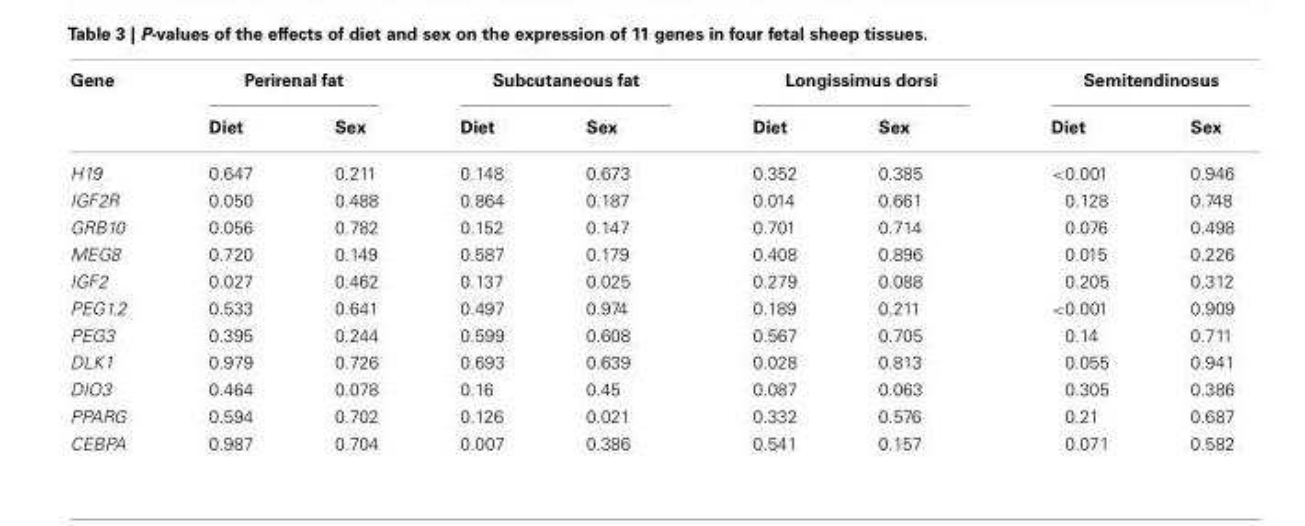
<table><thead><tr><td rowspan="2">Gene</td><td colspan="2">Perirenal fat</td><td colspan="2">Subcutaneous fat</td><td colspan="2">Longissimus dorsi</td><td colspan="2">Semitendinosus</td></tr><tr><td>Diet</td><td>Sex</td><td>Diet</td><td>Sex</td><td>Diet</td><td>Sex</td><td>Diet</td><td>Sex</td></tr></thead><tbody><tr><td>H19</td><td>0.647</td><td>0.211</td><td>0.148</td><td>0.673</td><td>0.352</td><td>0.385</td><td>&lt;0.001</td><td>0.946</td></tr><tr><td>IGF2R</td><td>0.050</td><td>0.488</td><td>0.864</td><td>0.187</td><td>0.014</td><td>0.661</td><td>0.128</td><td>0.748</td></tr><tr><td>GRB10</td><td>0.056</td><td>0.782</td><td>0.152</td><td>0.147</td><td>0.701</td><td>0.714</td><td>0.076</td><td>0.498</td></tr><tr><td>MEG8</td><td>0.720</td><td>0.149</td><td>0.587</td><td>0.179</td><td>0.408</td><td>0.896</td><td>0.015</td><td>0.226</td></tr><tr><td>IGF2</td><td>0.027</td><td>0.462</td><td>0.137</td><td>0.025</td><td>0.279</td><td>0.088</td><td>0.205</td><td>0.312</td></tr><tr><td>PEG1.2</td><td>0.533</td><td>0.641</td><td>0.497</td><td>0.974</td><td>0.189</td><td>0.211</td><td>&lt;0.001</td><td>0.909</td></tr><tr><td>PEG3</td><td>0.395</td><td>0.244</td><td>0.599</td><td>0.608</td><td>0.567</td><td>0.705</td><td>0.14</td><td>0.711</td></tr><tr><td>DLK1</td><td>0.979</td><td>0.726</td><td>0.693</td><td>0.639</td><td>0.028</td><td>0.813</td><td>0.055</td><td>0.941</td></tr><tr><td>DIO3</td><td>0.464</td><td>0.078</td><td>0.16</td><td>0.45</td><td>0.087</td><td>0.063</td><td>0.305</td><td>0.386</td></tr><tr><td>PPARG</td><td>0.594</td><td>0.702</td><td>0.126</td><td>0.021</td><td>0.332</td><td>0.576</td><td>0.21</td><td>0.687</td></tr><tr><td>CEBPA</td><td>0.987</td><td>0.704</td><td>0.007</td><td>0.386</td><td>0.541</td><td>0.157</td><td>0.071</td><td>0.582</td></tr></tbody></table>